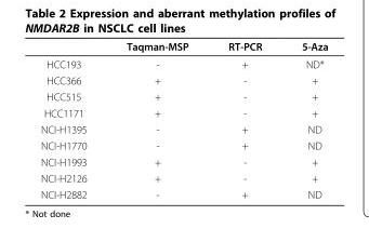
<table><thead><tr><td></td><td>Taqman-MSP</td><td>RT-PCR</td><td>5-Aza</td></tr></thead><tbody><tr><td>HCC193</td><td>-</td><td>+</td><td>ND*</td></tr><tr><td>HCC366</td><td>+</td><td>-</td><td>+</td></tr><tr><td>HCC515</td><td>+</td><td>-</td><td>+</td></tr><tr><td>HCC1171</td><td>+</td><td>-</td><td>+</td></tr><tr><td>NCI-H1395</td><td>-</td><td>+</td><td>ND</td></tr><tr><td>NCI-H1770</td><td>-</td><td>+</td><td>ND</td></tr><tr><td>NCI-H1993</td><td>+</td><td>-</td><td>+</td></tr><tr><td>NCI-H2126</td><td>+</td><td>-</td><td>+</td></tr><tr><td>NCI-H2882</td><td>-</td><td>+</td><td>ND</td></tr></tbody></table>